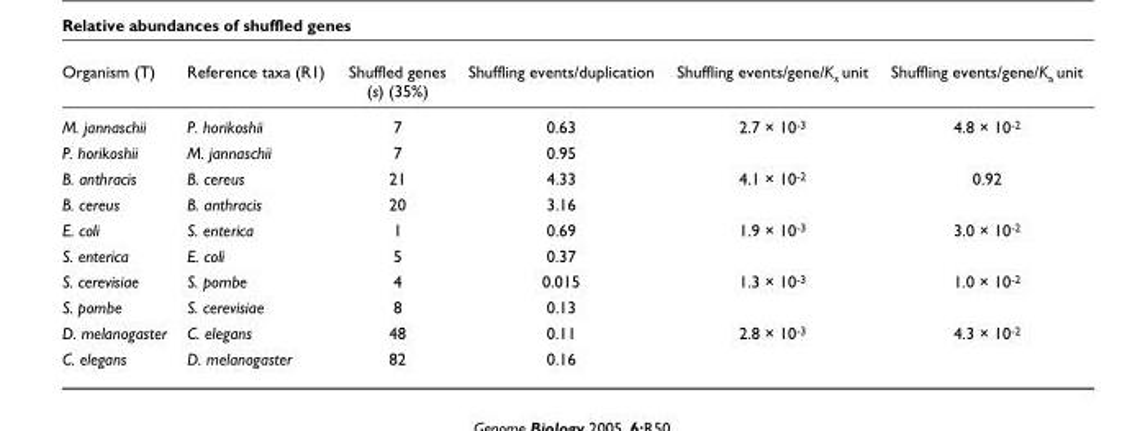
<table><thead><tr><td>Organism (T)</td><td>Reference taxa (R1)</td><td>Shuffled genes (s) (35%)</td><td>Shuffling events/duplication</td><td>Shuffling events/gene/Ks unit</td><td>Shuffling events/gene/Ka unit</td></tr></thead><tbody><tr><td>M. jannaschii</td><td>P. horikoshii</td><td>7</td><td>0.63</td><td>2.7 × 10-3</td><td>4.8 × 10-2</td></tr><tr><td>P. horikoshii</td><td>M. jannaschii</td><td>7</td><td>0.95</td><td></td><td></td></tr><tr><td>B. anthracis</td><td>B. cereus</td><td>21</td><td>4.33</td><td>4.1 × 10-2</td><td>0.92</td></tr><tr><td>B. cereus</td><td>B. anthracis</td><td>20</td><td>3.16</td><td></td><td></td></tr><tr><td>E. coli</td><td>S. enterica</td><td>1</td><td>0.69</td><td>1.9 × 10-3</td><td>3.0 × 10-2</td></tr><tr><td>S. enterica</td><td>E. coli</td><td>5</td><td>0.37</td><td></td><td></td></tr><tr><td>S. cerevisiae</td><td>S. pombe</td><td>4</td><td>0.015</td><td>1.3 × 10-3</td><td>1.0 × 10-2</td></tr><tr><td>S. pombe</td><td>S. cerevisiae</td><td>8</td><td>0.13</td><td></td><td></td></tr><tr><td>D. melanogaster</td><td>C. elegans</td><td>48</td><td>0.11</td><td>2.8 × 10-3</td><td>4.3 × 10-2</td></tr><tr><td>C. elegans</td><td>D. melanogaster</td><td>82</td><td>0.16</td><td></td><td></td></tr></tbody></table>